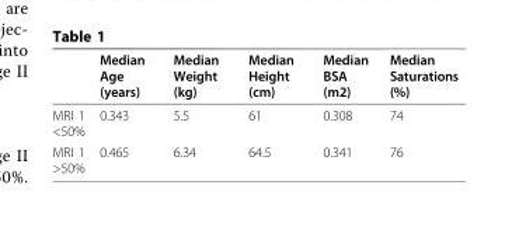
<table><thead><tr><td></td><td>Median Age (years)</td><td>Median Weight (kg)</td><td>Median Height (cm)</td><td>Median BSA (m2)</td><td>Median Saturations (%)</td></tr></thead><tbody><tr><td>MRI 1 &lt;50%</td><td>0.343</td><td>5.5</td><td>61</td><td>0.308</td><td>74</td></tr><tr><td>MRI 1 &gt;50%</td><td>0.465</td><td>6.34</td><td>64.5</td><td>0.341</td><td>76</td></tr></tbody></table>